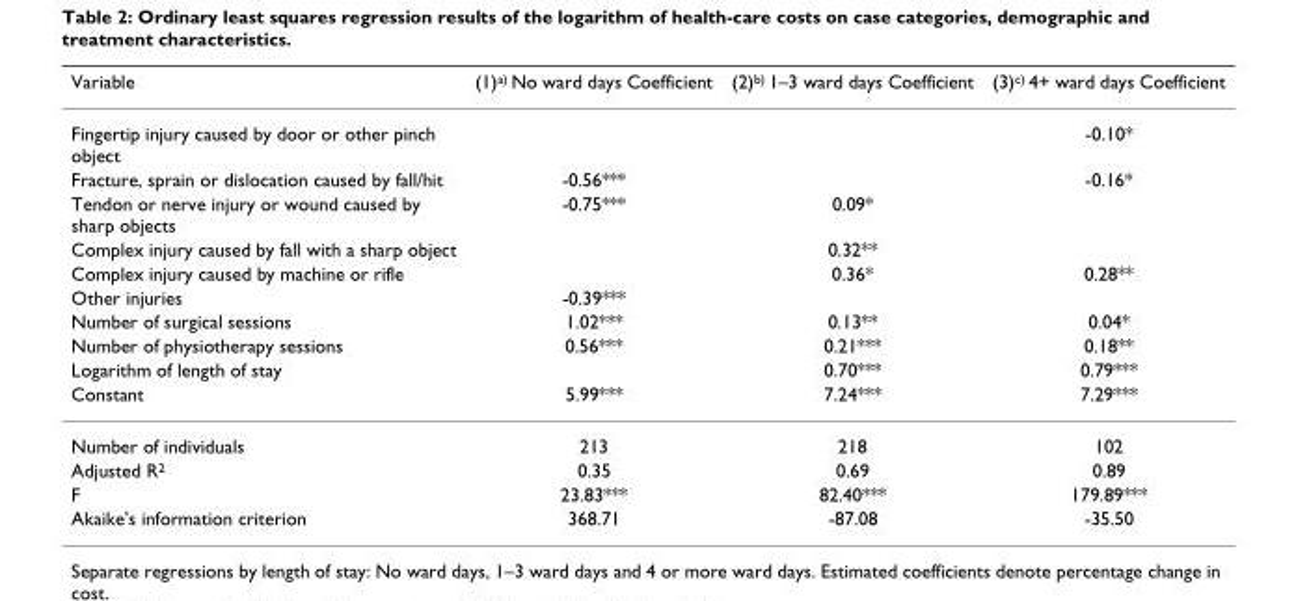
<table><thead><tr><td>Variable</td><td>(1)<sup>a)</sup> No ward days Coefficient</td><td>(2)<sup>b)</sup> 1–3 ward days Coefficient</td><td>(3)<sup>c)</sup> 4+ ward days Coefficient</td></tr></thead><tbody><tr><td>Fingertip injury caused by door or other pinch object</td><td></td><td></td><td>-0.10*</td></tr><tr><td>Fracture, sprain or dislocation caused by fall/hit</td><td>-0.56***</td><td></td><td>-0.16*</td></tr><tr><td>Tendon or nerve injury or wound caused by sharp objects</td><td>-0.75***</td><td>0.09*</td><td></td></tr><tr><td>Complex injury caused by fall with a sharp object</td><td></td><td>0.32**</td><td></td></tr><tr><td>Complex injury caused by machine or rifle</td><td></td><td>0.36*</td><td>0.28**</td></tr><tr><td>Other injuries</td><td>-0.39***</td><td></td><td></td></tr><tr><td>Number of surgical sessions</td><td>1.02***</td><td>0.13**</td><td>0.04*</td></tr><tr><td>Number of physiotherapy sessions</td><td>0.56***</td><td>0.21***</td><td>0.18**</td></tr><tr><td>Logarithm of length of stay</td><td></td><td>0.70***</td><td>0.79***</td></tr><tr><td>Constant</td><td>5.99***</td><td>7.24***</td><td>7.29***</td></tr><tr><td>Number of individuals</td><td>213</td><td>218</td><td>102</td></tr><tr><td>Adjusted R<sup>2</sup></td><td>0.35</td><td>0.69</td><td>0.89</td></tr><tr><td>F</td><td>23.83***</td><td>82.40***</td><td>179.89***</td></tr><tr><td>Akaike&#x27;s information criterion</td><td>368.71</td><td>-87.08</td><td>-35.50</td></tr></tbody></table>